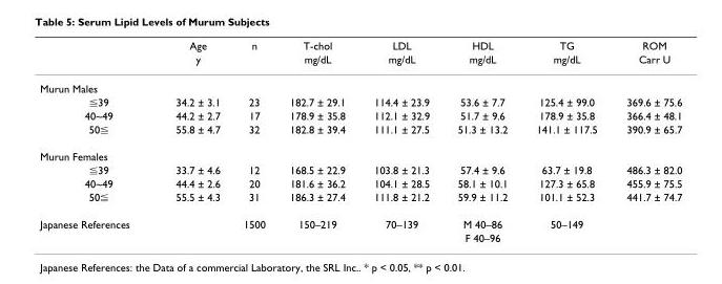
<table><thead><tr><td rowspan="2"></td><td rowspan="2">Age y</td><td rowspan="2">n</td><td rowspan="2">T-chol mg/dL</td><td rowspan="2">LDL mg/dL</td><td rowspan="2">HDL mg/dL</td><td rowspan="2">TG mg/dL</td><td rowspan="2">ROM Carr U</td></tr><tr></tr></thead><tbody><tr><td colspan="8">Murun Males</td></tr><tr><td>≦39</td><td>34.2 ± 3.1</td><td>23</td><td>182.7 ± 29.1</td><td>114.4 ± 23.9</td><td>53.6 ± 7.7</td><td>125.4 ± 99.0</td><td>369.6 ± 75.6</td></tr><tr><td>40~49</td><td>44.2 ± 2.7</td><td>17</td><td>178.9 ± 35.8</td><td>112.1 ± 32.9</td><td>51.7 ± 9.6</td><td>178.9 ± 35.8</td><td>366.4 ± 48.1</td></tr><tr><td>50≦</td><td>55.8 ± 4.7</td><td>32</td><td>182.8 ± 39.4</td><td>111.1 ± 27.5</td><td>51.3 ± 13.2</td><td>141.1 ± 117.5</td><td>390.9 ± 65.7</td></tr><tr><td colspan="8">Murun Females</td></tr><tr><td>≦39</td><td>33.7 ± 4.6</td><td>12</td><td>168.5 ± 22.9</td><td>103.8 ± 21.3</td><td>57.4 ± 9.6</td><td>63.7 ± 19.8</td><td>486.3 ± 82.0</td></tr><tr><td>40~49</td><td>44.4 ± 2.6</td><td>20</td><td>181.6 ± 36.2</td><td>104.1 ± 28.5</td><td>58.1 ± 10.1</td><td>127.3 ± 65.8</td><td>455.9 ± 75.5</td></tr><tr><td>50≦</td><td>55.5 ± 4.3</td><td>31</td><td>186.3 ± 27.4</td><td>111.8 ± 21.2</td><td>59.9 ± 11.2</td><td>101.1 ± 52.3</td><td>441.7 ± 74.7</td></tr><tr><td rowspan="2">Japanese References</td><td></td><td>1500</td><td>150–219</td><td>70–139</td><td>M 40–86</td><td>50–149</td><td></td></tr><tr><td></td><td></td><td></td><td></td><td>F 40–96</td><td></td><td></td></tr></tbody></table>